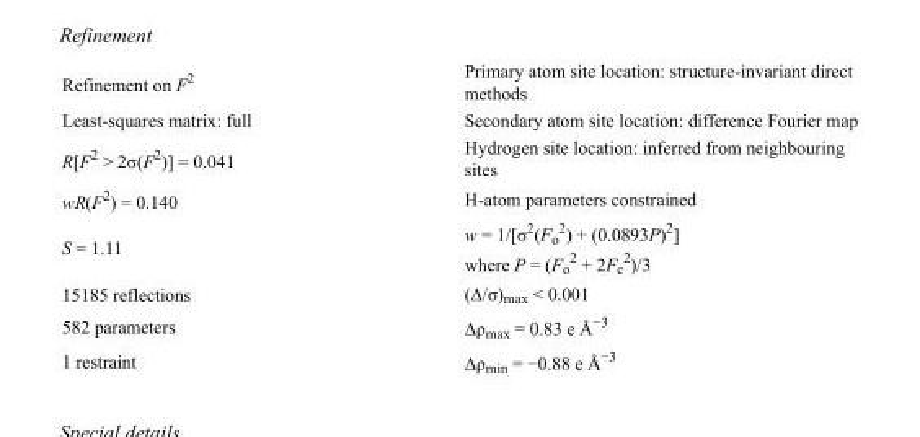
<table><tbody><tr><td>Refinement on F<sup>2</sup></td><td>Primary atom site location: structure-invariant direct methods</td></tr><tr><td>Least-squares matrix: full</td><td>Secondary atom site location: difference Fourier map</td></tr><tr><td>R[F<sup>2</sup> &gt; 2σ(F<sup>2</sup>)] = 0.041</td><td>Hydrogen site location: inferred from neighbouring sites</td></tr><tr><td>wR(F<sup>2</sup>) = 0.140</td><td>H-atom parameters constrained</td></tr><tr><td>S = 1.11</td><td>w = 1/[σ<sup>2</sup>(F<sub>o</sub> <sup>2</sup>) + (0.0893P)<sup>2</sup>] where P = (F<sub>o</sub> <sup>2</sup> + 2F<sub>c</sub> <sup>2</sup>)/3</td></tr><tr><td>15185 reflections</td><td>(Δ/σ)<sub>max</sub> &lt; 0.001</td></tr><tr><td>582 parameters</td><td>Δρ<sub>max</sub> = 0.83 e Å<sup>−3</sup></td></tr><tr><td>1 restraint</td><td>Δρ<sub>min</sub> = −0.88 e Å<sup>−3</sup></td></tr></tbody></table>